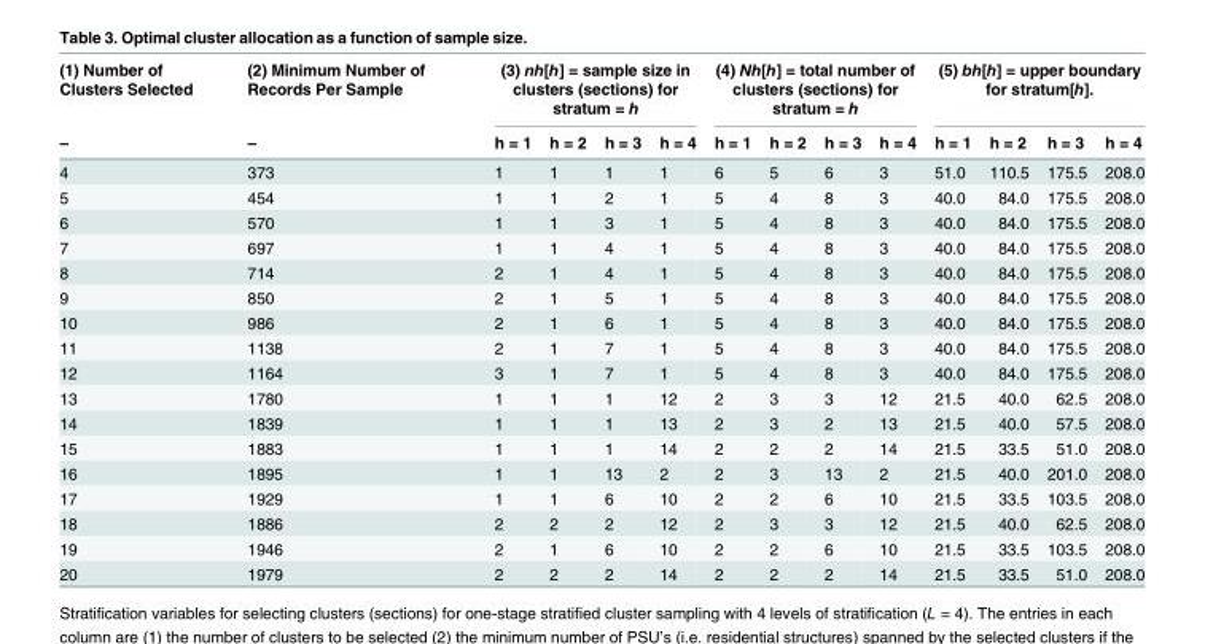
<table><thead><tr><td rowspan="2">(1) Number of Clusters Selected –</td><td rowspan="2">(2) Minimum Number of Records Per Sample –</td><td colspan="4">(3) nh[h] = sample size in clusters (sections) for stratum = h</td><td colspan="4">(4) Nh[h] = total number of clusters (sections) for stratum = h</td><td colspan="4">(5) bh[h] = upper boundary for stratum[h].</td></tr><tr><td>h = 1</td><td>h = 2</td><td>h = 3</td><td>h = 4</td><td>h = 1</td><td>h = 2</td><td>h = 3</td><td>h = 4</td><td>h = 1</td><td>h = 2</td><td>h = 3</td><td>h = 4</td></tr></thead><tbody><tr><td>4</td><td>373</td><td>1</td><td>1</td><td>1</td><td>1</td><td>6</td><td>5</td><td>6</td><td>3</td><td>51.0</td><td>110.5</td><td>175.5</td><td>208.0</td></tr><tr><td>5</td><td>454</td><td>1</td><td>1</td><td>2</td><td>1</td><td>5</td><td>4</td><td>8</td><td>3</td><td>40.0</td><td>84.0</td><td>175.5</td><td>208.0</td></tr><tr><td>6</td><td>570</td><td>1</td><td>1</td><td>3</td><td>1</td><td>5</td><td>4</td><td>8</td><td>3</td><td>40.0</td><td>84.0</td><td>175.5</td><td>208.0</td></tr><tr><td>7</td><td>697</td><td>1</td><td>1</td><td>4</td><td>1</td><td>5</td><td>4</td><td>8</td><td>3</td><td>40.0</td><td>84.0</td><td>175.5</td><td>208.0</td></tr><tr><td>8</td><td>714</td><td>2</td><td>1</td><td>4</td><td>1</td><td>5</td><td>4</td><td>8</td><td>3</td><td>40.0</td><td>84.0</td><td>175.5</td><td>208.0</td></tr><tr><td>9</td><td>850</td><td>2</td><td>1</td><td>5</td><td>1</td><td>5</td><td>4</td><td>8</td><td>3</td><td>40.0</td><td>84.0</td><td>175.5</td><td>208.0</td></tr><tr><td>10</td><td>986</td><td>2</td><td>1</td><td>6</td><td>1</td><td>5</td><td>4</td><td>8</td><td>3</td><td>40.0</td><td>84.0</td><td>175.5</td><td>208.0</td></tr><tr><td>11</td><td>1138</td><td>2</td><td>1</td><td>7</td><td>1</td><td>5</td><td>4</td><td>8</td><td>3</td><td>40.0</td><td>84.0</td><td>175.5</td><td>208.0</td></tr><tr><td>12</td><td>1164</td><td>3</td><td>1</td><td>7</td><td>1</td><td>5</td><td>4</td><td>8</td><td>3</td><td>40.0</td><td>84.0</td><td>175.5</td><td>208.0</td></tr><tr><td>13</td><td>1780</td><td>1</td><td>1</td><td>1</td><td>12</td><td>2</td><td>3</td><td>3</td><td>12</td><td>21.5</td><td>40.0</td><td>62.5</td><td>208.0</td></tr><tr><td>14</td><td>1839</td><td>1</td><td>1</td><td>1</td><td>13</td><td>2</td><td>3</td><td>2</td><td>13</td><td>21.5</td><td>40.0</td><td>57.5</td><td>208.0</td></tr><tr><td>15</td><td>1883</td><td>1</td><td>1</td><td>1</td><td>14</td><td>2</td><td>2</td><td>2</td><td>14</td><td>21.5</td><td>33.5</td><td>51.0</td><td>208.0</td></tr><tr><td>16</td><td>1895</td><td>1</td><td>1</td><td>13</td><td>2</td><td>2</td><td>3</td><td>13</td><td>2</td><td>21.5</td><td>40.0</td><td>201.0</td><td>208.0</td></tr><tr><td>17</td><td>1929</td><td>1</td><td>1</td><td>6</td><td>10</td><td>2</td><td>2</td><td>6</td><td>10</td><td>21.5</td><td>33.5</td><td>103.5</td><td>208.0</td></tr><tr><td>18</td><td>1886</td><td>2</td><td>2</td><td>2</td><td>12</td><td>2</td><td>3</td><td>3</td><td>12</td><td>21.5</td><td>40.0</td><td>62.5</td><td>208.0</td></tr><tr><td>19</td><td>1946</td><td>2</td><td>1</td><td>6</td><td>10</td><td>2</td><td>2</td><td>6</td><td>10</td><td>21.5</td><td>33.5</td><td>103.5</td><td>208.0</td></tr><tr><td>20</td><td>1979</td><td>2</td><td>2</td><td>2</td><td>14</td><td>2</td><td>2</td><td>2</td><td>14</td><td>21.5</td><td>33.5</td><td>51.0</td><td>208.0</td></tr></tbody></table>